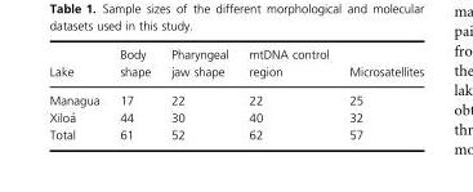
<table><thead><tr><td>Lake</td><td>Body shape</td><td>Pharyngeal jaw shape</td><td>mtDNA control region</td><td>Microsatellites</td></tr></thead><tbody><tr><td>Managua</td><td>17</td><td>22</td><td>22</td><td>25</td></tr><tr><td>Xilo�a</td><td>44</td><td>30</td><td>40</td><td>32</td></tr><tr><td>Total</td><td>61</td><td>52</td><td>62</td><td>57</td></tr></tbody></table>